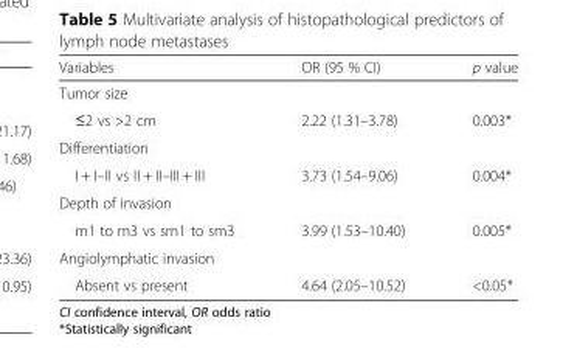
<table><thead><tr><td>Variables</td><td>OR (95 % CI)</td><td>p value</td></tr></thead><tbody><tr><td colspan="3">Tumor size</td></tr><tr><td>≤2 vs &gt;2 cm</td><td>2.22 (1.31–3.78)</td><td>0.003*</td></tr><tr><td colspan="3">Differentiation</td></tr><tr><td>I + I–II vs II + II–III + III</td><td>3.73 (1.54–9.06)</td><td>0.004*</td></tr><tr><td colspan="3">Depth of invasion</td></tr><tr><td>m1 to m3 vs sm1 to sm3</td><td>3.99 (1.53–10.40)</td><td>0.005*</td></tr><tr><td colspan="3">Angiolymphatic invasion</td></tr><tr><td>Absent vs present</td><td>4.64 (2.05–10.52)</td><td>&lt;0.05*</td></tr></tbody></table>